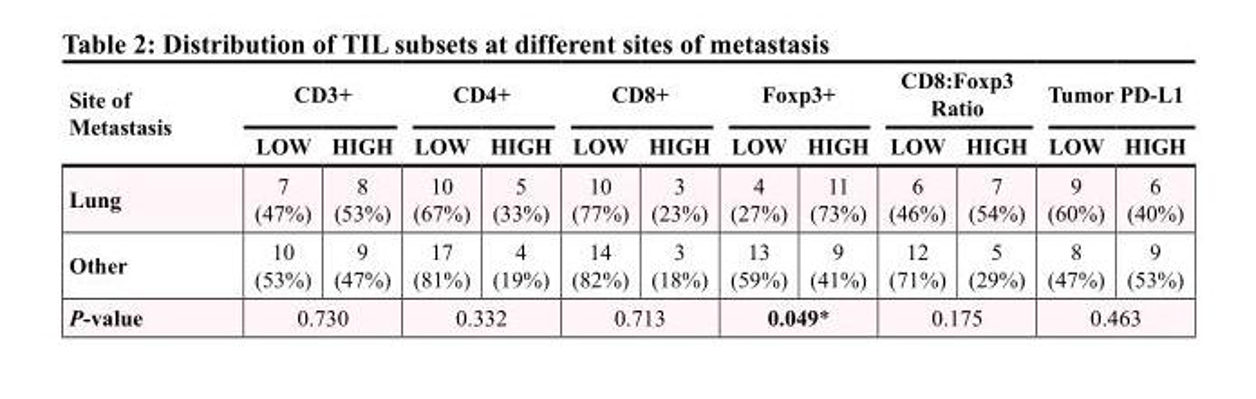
<table><thead><tr><td rowspan="2">Site of Metastasis</td><td colspan="2">CD3+</td><td colspan="2">CD4+</td><td colspan="2">CD8+</td><td colspan="2">Foxp3+</td><td colspan="2">CD8:Foxp3 Ratio</td><td colspan="2">Tumor PD-L1</td></tr><tr><td>LOW</td><td>HIGH</td><td>LOW</td><td>HIGH</td><td>LOW</td><td>HIGH</td><td>LOW</td><td>HIGH</td><td>LOW</td><td>HIGH</td><td>LOW</td><td>HIGH</td></tr></thead><tbody><tr><td>Lung</td><td>7 (47%)</td><td>8 (53%)</td><td>10 (67%)</td><td>5 (33%)</td><td>10 (77%)</td><td>3 (23%)</td><td>4 (27%)</td><td>11 (73%)</td><td>6 (46%)</td><td>7 (54%)</td><td>9 (60%)</td><td>6 (40%)</td></tr><tr><td>Other</td><td>10 (53%)</td><td>9 (47%)</td><td>17 (81%)</td><td>4 (19%)</td><td>14 (82%)</td><td>3 (18%)</td><td>13 (59%)</td><td>9 (41%)</td><td>12 (71%)</td><td>5 (29%)</td><td>8 (47%)</td><td>9 (53%)</td></tr><tr><td>P-value</td><td colspan="2">0.730</td><td colspan="2">0.332</td><td colspan="2">0.713</td><td colspan="2">0.049*</td><td colspan="2">0.175</td><td colspan="2">0.463</td></tr></tbody></table>